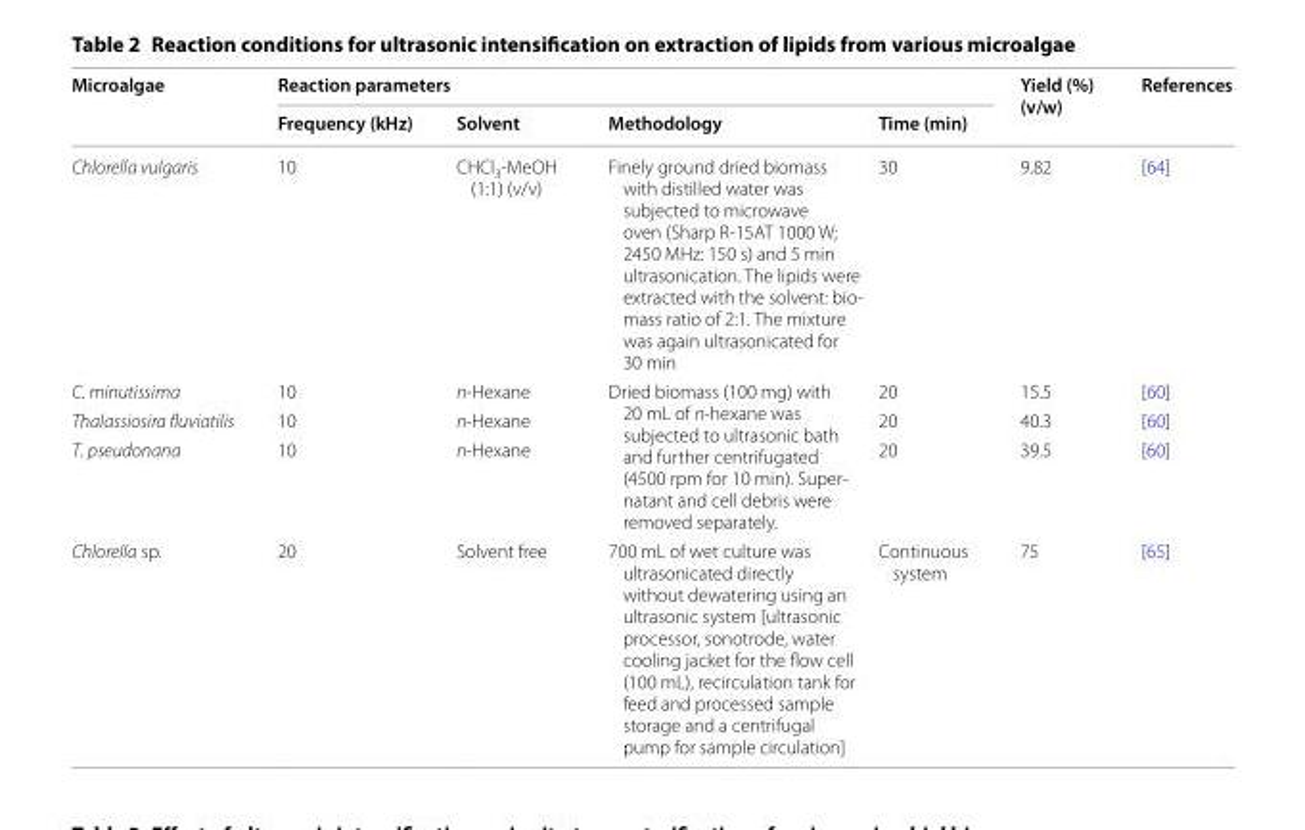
<table><thead><tr><td rowspan="2">Microalgae</td><td colspan="4">Reaction parameters</td><td rowspan="2">Yield (%) (v/w)</td><td rowspan="2">References</td></tr><tr><td>Frequency (kHz)</td><td>Solvent</td><td>Methodology</td><td>Time (min)</td></tr></thead><tbody><tr><td>Chlorella vulgaris</td><td>10</td><td>CHCl<sub>3</sub>-MeOH (1:1) (v/v)</td><td>Finely ground dried biomass with distilled water was subjected to microwave oven (Sharp R-15AT 1000 W; 2450 MHz: 150 s) and 5 min ultrasonication. The lipids were extracted with the solvent: bio- mass ratio of 2:1. The mixture was again ultrasonicated for 30 min</td><td>30</td><td>9.82</td><td>[64]</td></tr><tr><td>C. minutissima</td><td>10</td><td>n-Hexane</td><td rowspan="3">Dried biomass (100 mg) with 20 mL of n-hexane was subjected to ultrasonic bath and further centrifugated (4500 rpm for 10 min). Super- natant and cell debris were removed separately.</td><td>20</td><td>15.5</td><td>[60]</td></tr><tr><td>Thalassiosira fluviatilis</td><td>10</td><td>n-Hexane</td><td>20</td><td>40.3</td><td>[60]</td></tr><tr><td>T. pseudonana</td><td>10</td><td>n-Hexane</td><td>20</td><td>39.5</td><td>[60]</td></tr><tr><td>Chlorella sp.</td><td>20</td><td>Solvent free</td><td>700 mL of wet culture was ultrasonicated directly without dewatering using an ultrasonic system [ultrasonic processor, sonotrode, water cooling jacket for the flow cell (100 mL), recirculation tank for feed and processed sample storage and a centrifugal pump for sample circulation]</td><td>Continuous system</td><td>75</td><td>[65]</td></tr></tbody></table>